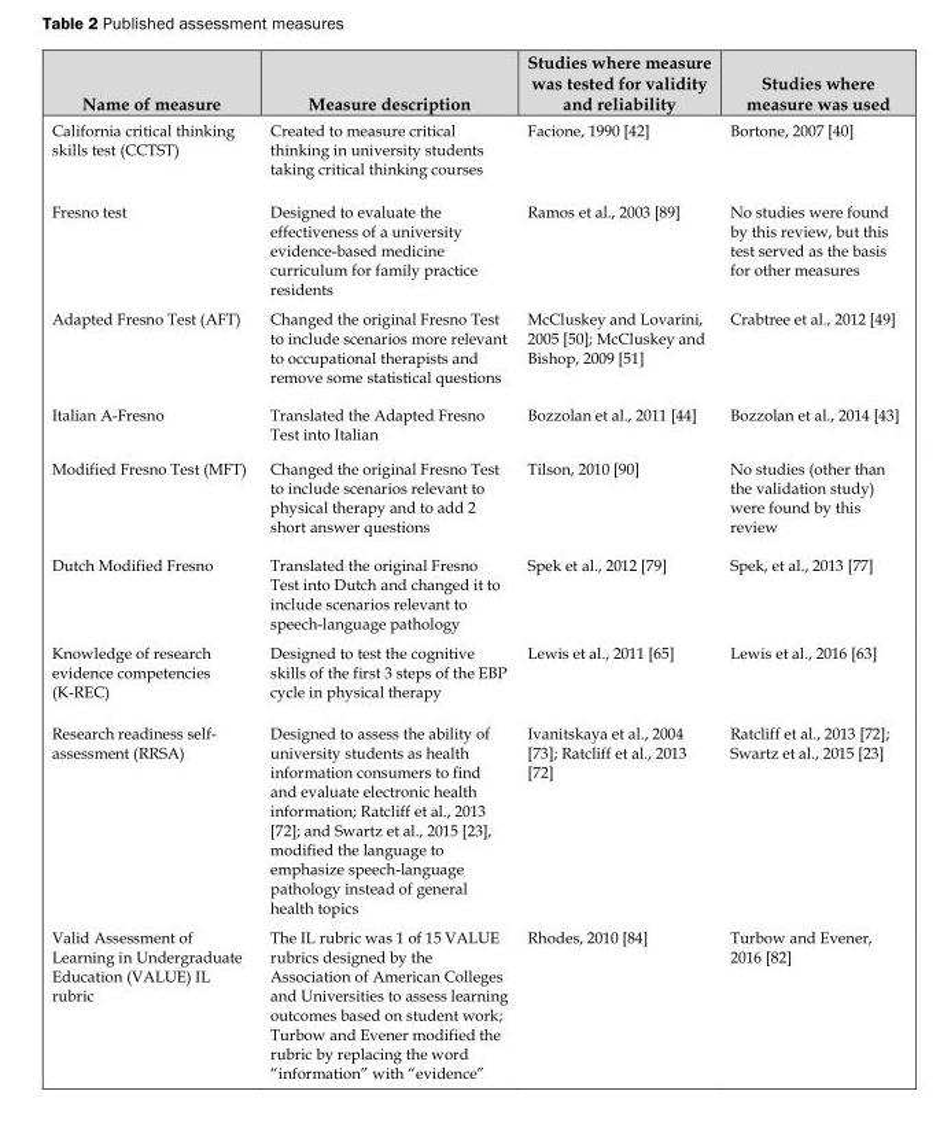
<table><thead><tr><td>Name of measure</td><td>Measure description</td><td>Studies where measure was tested for validity and reliability</td><td>Studies where measure was used</td></tr></thead><tbody><tr><td>California critical thinking skills test (CCTST)</td><td>Created to measure critical thinking in university students taking critical thinking courses</td><td>Facione, 1990 [42]</td><td>Bortone, 2007 [40]</td></tr><tr><td>Fresno test</td><td>Designed to evaluate the effectiveness of a university evidence-based medicine curriculum for family practice residents</td><td>Ramos et al., 2003 [89]</td><td>No studies were found by this review, but this test served as the basis for other measures</td></tr><tr><td>Adapted Fresno Test (AFT)</td><td>Changed the original Fresno Test to include scenarios more relevant to occupational therapists and remove some statistical questions</td><td>McCluskey and Lovarini, 2005 [50]; McCluskey and Bishop, 2009 [51]</td><td>Crabtree et al., 2012 [49]</td></tr><tr><td>Italian A-Fresno</td><td>Translated the Adapted Fresno Test into Italian</td><td>Bozzolan et al., 2011 [44]</td><td>Bozzolan et al., 2014 [43]</td></tr><tr><td>Modified Fresno Test (MFT)</td><td>Changed the original Fresno Test to include scenarios relevant to physical therapy and to add 2 short answer questions</td><td>Tilson, 2010 [90]</td><td>No studies (other than the validation study) were found by this review</td></tr><tr><td>Dutch Modified Fresno</td><td>Translated the original Fresno Test into Dutch and changed it to include scenarios relevant to speech-language pathology</td><td>Spek et al., 2012 [79]</td><td>Spek, et al., 2013 [77]</td></tr><tr><td>Knowledge of research evidence competencies (K-REC)</td><td>Designed to test the cognitive skills of the first 3 steps of the EBP cycle in physical therapy</td><td>Lewis et al., 2011 [65]</td><td>Lewis et al., 2016 [63]</td></tr><tr><td>Research readiness self- assessment (RRSA)</td><td>Designed to assess the ability of university students as health information consumers to find and evaluate electronic health information; Ratcliff et al., 2013 [72]; and Swartz et al., 2015 [23], modified the language to emphasize speech-language pathology instead of general health topics</td><td>Ivanitskaya et al., 2004 [73]; Ratcliff et al., 2013 [72]</td><td>Ratcliff et al., 2013 [72]; Swartz et al., 2015 [23]</td></tr><tr><td>Valid Assessment of Learning in Undergraduate Education (VALUE) IL rubric</td><td>The IL rubric was 1 of 15 VALUE rubrics designed by the Association of American Colleges and Universities to assess learning outcomes based on student work; Turbow and Evener modified the rubric by replacing the word “information” with “evidence”</td><td>Rhodes, 2010 [84]</td><td>Turbow and Evener, 2016 [82]</td></tr></tbody></table>